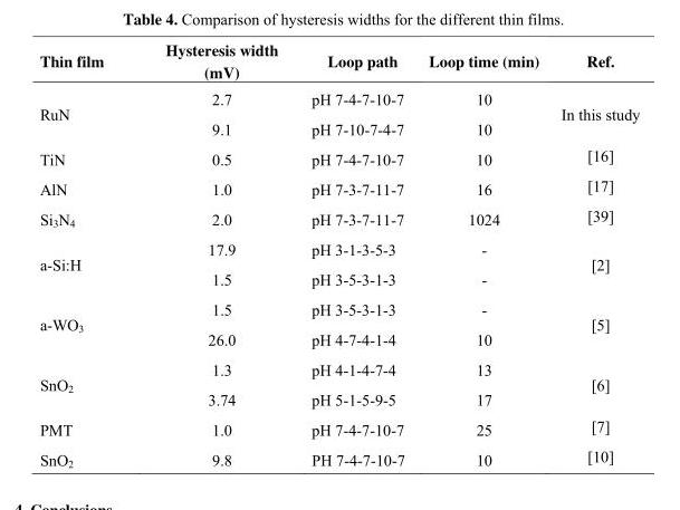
<table><thead><tr><td>Thin film</td><td>Hysteresis width (mV)</td><td>Loop path</td><td>Loop time (min)</td><td>Ref.</td></tr></thead><tbody><tr><td rowspan="2">RuN</td><td>2.7</td><td>pH 7-4-7-10-7</td><td>10</td><td rowspan="2">In this study</td></tr><tr><td>9.1</td><td>pH 7-10-7-4-7</td><td>10</td></tr><tr><td>TiN</td><td>0.5</td><td>pH 7-4-7-10-7</td><td>10</td><td>[16]</td></tr><tr><td>AlN</td><td>1.0</td><td>pH 7-3-7-11-7</td><td>16</td><td>[17]</td></tr><tr><td>Si<sub>3</sub>N<sub>4</sub></td><td>2.0</td><td>pH 7-3-7-11-7</td><td>1024</td><td>[39]</td></tr><tr><td rowspan="2">a-Si:H</td><td>17.9</td><td>pH 3-1-3-5-3</td><td>-</td><td rowspan="2">[2]</td></tr><tr><td>1.5</td><td>pH 3-5-3-1-3</td><td>-</td></tr><tr><td rowspan="2">a-WO<sub>3</sub></td><td>1.5</td><td>pH 3-5-3-1-3</td><td>-</td><td rowspan="2">[5]</td></tr><tr><td>26.0</td><td>pH 4-7-4-1-4</td><td>10</td></tr><tr><td rowspan="2">SnO<sub>2</sub></td><td>1.3</td><td>pH 4-1-4-7-4</td><td>13</td><td rowspan="2">[6]</td></tr><tr><td>3.74</td><td>pH 5-1-5-9-5</td><td>17</td></tr><tr><td>PMT</td><td>1.0</td><td>pH 7-4-7-10-7</td><td>25</td><td>[7]</td></tr><tr><td>SnO<sub>2</sub></td><td>9.8</td><td>PH 7-4-7-10-7</td><td>10</td><td>[10]</td></tr></tbody></table>